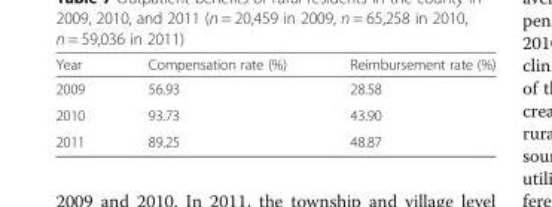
<table><thead><tr><td>Year</td><td>Compensation rate (%)</td><td>Reimbursement rate (%)</td></tr></thead><tbody><tr><td>2009</td><td>56.93</td><td>28.58</td></tr><tr><td>2010</td><td>93.73</td><td>43.90</td></tr><tr><td>2011</td><td>89.25</td><td>48.87</td></tr></tbody></table>